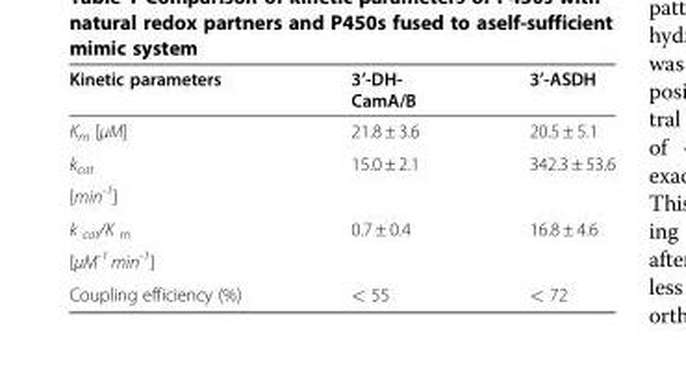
<table><thead><tr><td>Kinetic parameters</td><td>3’-DH- CamA/B</td><td>3’-ASDH</td></tr></thead><tbody><tr><td>K<sub>m</sub> [μM]</td><td>21.8 ± 3.6</td><td>20.5 ± 5.1</td></tr><tr><td>k<sub>cat</sub></td><td rowspan="2">15.0 ± 2.1</td><td rowspan="2">342.3 ± 53.6</td></tr><tr><td>[min<sup>-1</sup>]</td></tr><tr><td>k <sub>cat</sub>/K <sub>m</sub></td><td rowspan="2">0.7 ± 0.4</td><td rowspan="2">16.8 ± 4.6</td></tr><tr><td>[μM<sup>-1</sup> min<sup>-1</sup>]</td></tr><tr><td>Coupling efficiency (%)</td><td>&lt; 55</td><td>&lt; 72</td></tr></tbody></table>